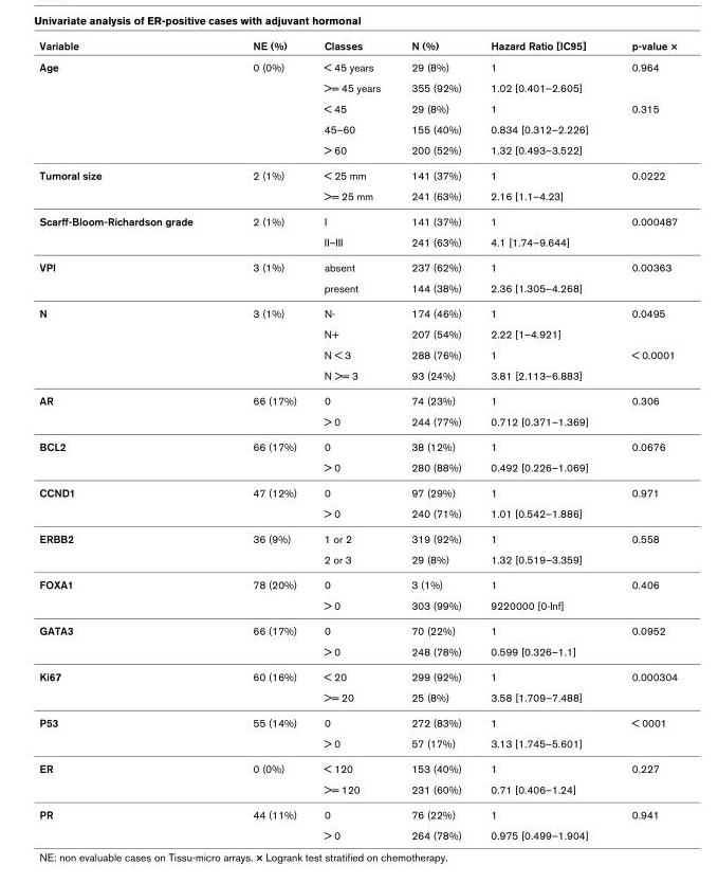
<table><thead><tr><td>Variable</td><td>NE (%)</td><td>Classes</td><td>N (%)</td><td>Hazard Ratio [IC95]</td><td>p-value ×</td></tr></thead><tbody><tr><td rowspan="5">Age</td><td>0 (0%)</td><td>&lt; 45 years</td><td>29 (8%)</td><td>1</td><td>0.964</td></tr><tr><td></td><td>&gt;= 45 years</td><td>355 (92%)</td><td>1.02 [0.401–2.605]</td><td></td></tr><tr><td></td><td>&lt; 45</td><td>29 (8%)</td><td>1</td><td>0.315</td></tr><tr><td></td><td>45–60</td><td>155 (40%)</td><td>0.834 [0.312–2.226]</td><td></td></tr><tr><td></td><td>&gt; 60</td><td>200 (52%)</td><td>1.32 [0.493–3.522]</td><td></td></tr><tr><td rowspan="2">Tumoral size</td><td>2 (1%)</td><td>&lt; 25 mm</td><td>141 (37%)</td><td>1</td><td>0.0222</td></tr><tr><td></td><td>&gt;= 25 mm</td><td>241 (63%)</td><td>2.16 [1.1–4.23]</td><td></td></tr><tr><td rowspan="2">Scarff-Bloom-Richardson grade</td><td>2 (1%)</td><td>I</td><td>141 (37%)</td><td>1</td><td>0.000487</td></tr><tr><td></td><td>II–III</td><td>241 (63%)</td><td>4.1 [1.74–9.644]</td><td></td></tr><tr><td rowspan="2">VPI</td><td>3 (1%)</td><td>absent</td><td>237 (62%)</td><td>1</td><td>0.00363</td></tr><tr><td></td><td>present</td><td>144 (38%)</td><td>2.36 [1.305–4.268]</td><td></td></tr><tr><td rowspan="4">N</td><td>3 (1%)</td><td>N-</td><td>174 (46%)</td><td>1</td><td>0.0495</td></tr><tr><td></td><td>N+</td><td>207 (54%)</td><td>2.22 [1–4.921]</td><td></td></tr><tr><td></td><td>N &lt; 3</td><td>288 (76%)</td><td>1</td><td>&lt; 0.0001</td></tr><tr><td></td><td>N &gt;= 3</td><td>93 (24%)</td><td>3.81 [2.113–6.883]</td><td></td></tr><tr><td rowspan="2">AR</td><td>66 (17%)</td><td>0</td><td>74 (23%)</td><td>1</td><td>0.306</td></tr><tr><td></td><td>&gt; 0</td><td>244 (77%)</td><td>0.712 [0.371–1.369]</td><td></td></tr><tr><td rowspan="2">BCL2</td><td>66 (17%)</td><td>0</td><td>38 (12%)</td><td>1</td><td>0.0676</td></tr><tr><td></td><td>&gt; 0</td><td>280 (88%)</td><td>0.492 [0.226–1.069]</td><td></td></tr><tr><td rowspan="2">CCND1</td><td>47 (12%)</td><td>0</td><td>97 (29%)</td><td>1</td><td>0.971</td></tr><tr><td></td><td>&gt; 0</td><td>240 (71%)</td><td>1.01 [0.542–1.886]</td><td></td></tr><tr><td rowspan="2">ERBB2</td><td>36 (9%)</td><td>1 or 2</td><td>319 (92%)</td><td>1</td><td>0.558</td></tr><tr><td></td><td>2 or 3</td><td>29 (8%)</td><td>1.32 [0.519–3.359]</td><td></td></tr><tr><td rowspan="2">FOXA1</td><td>78 (20%)</td><td>0</td><td>3 (1%)</td><td>1</td><td>0.406</td></tr><tr><td></td><td>&gt; 0</td><td>303 (99%)</td><td>9220000 [0-Inf]</td><td></td></tr><tr><td rowspan="2">GATA3</td><td>66 (17%)</td><td>0</td><td>70 (22%)</td><td>1</td><td>0.0952</td></tr><tr><td></td><td>&gt; 0</td><td>248 (78%)</td><td>0.599 [0.326–1.1]</td><td></td></tr><tr><td rowspan="2">Ki67</td><td>60 (16%)</td><td>&lt; 20</td><td>299 (92%)</td><td>1</td><td>0.000304</td></tr><tr><td></td><td>&gt;= 20</td><td>25 (8%)</td><td>3.58 [1.709–7.488]</td><td></td></tr><tr><td rowspan="2">P53</td><td>55 (14%)</td><td>0</td><td>272 (83%)</td><td>1</td><td>&lt; 0001</td></tr><tr><td></td><td>&gt; 0</td><td>57 (17%)</td><td>3.13 [1.745–5.601]</td><td></td></tr><tr><td rowspan="2">ER</td><td>0 (0%)</td><td>&lt; 120</td><td>153 (40%)</td><td>1</td><td>0.227</td></tr><tr><td></td><td>&gt;= 120</td><td>231 (60%)</td><td>0.71 [0.406–1.24]</td><td></td></tr><tr><td rowspan="2">PR</td><td>44 (11%)</td><td>0</td><td>76 (22%)</td><td>1</td><td>0.941</td></tr><tr><td></td><td>&gt; 0</td><td>264 (78%)</td><td>0.975 [0.499–1.904]</td><td></td></tr></tbody></table>